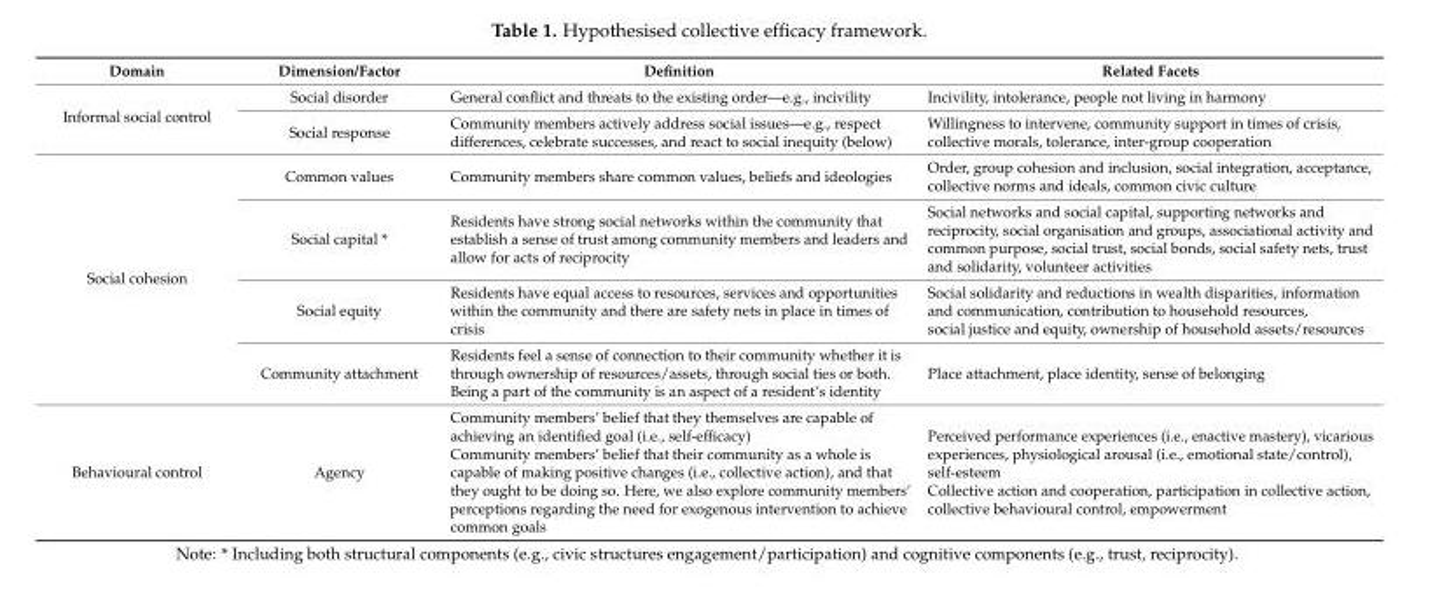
<table><thead><tr><td>Domain</td><td>Dimension/Factor</td><td>Definition</td><td>Related Facets</td></tr></thead><tbody><tr><td rowspan="2">Informal social control</td><td>Social disorder</td><td>General conflict and threats to the existing order—e.g., incivility</td><td>Incivility, intolerance, people not living in harmony</td></tr><tr><td>Social response</td><td>Community members actively address social issues—e.g., respect differences, celebrate successes, and react to social inequity (below)</td><td>Willingness to intervene, community support in times of crisis, collective morals, tolerance, inter-group cooperation</td></tr><tr><td rowspan="4">Social cohesion</td><td>Common values</td><td>Community members share common values, beliefs and ideologies</td><td>Order, group cohesion and inclusion, social integration, acceptance, collective norms and ideals, common civic culture</td></tr><tr><td>Social capital *</td><td>Residents have strong social networks within the community that establish a sense of trust among community members and leaders and allow for acts of reciprocity</td><td>Social networks and social capital, supporting networks and reciprocity, social organisation and groups, associational activity and common purpose, social trust, social bonds, social safety nets, trust and solidarity, volunteer activities</td></tr><tr><td>Social equity</td><td>Residents have equal access to resources, services and opportunities within the community and there are safety nets in place in times of crisis</td><td>Social solidarity and reductions in wealth disparities, information and communication, contribution to household resources, social justice and equity, ownership of household assets/resources</td></tr><tr><td>Community attachment</td><td>Residents feel a sense of connection to their community whether it is through ownership of resources/assets, through social ties or both. Being a part of the community is an aspect of a resident’s identity</td><td>Place attachment, place identity, sense of belonging</td></tr><tr><td>Behavioural control</td><td>Agency</td><td>Community members’ belief that they themselves are capable of achieving an identified goal (i.e., self-efficacy) Community members’ belief that their community as a whole is capable of making positive changes (i.e., collective action), and that they ought to be doing so. Here, we also explore community members’ perceptions regarding the need for exogenous intervention to achieve common goals</td><td>Perceived performance experiences (i.e., enactive mastery), vicarious experiences, physiological arousal (i.e., emotional state/control), self-esteem Collective action and cooperation, participation in collective action, collective behavioural control, empowerment</td></tr></tbody></table>